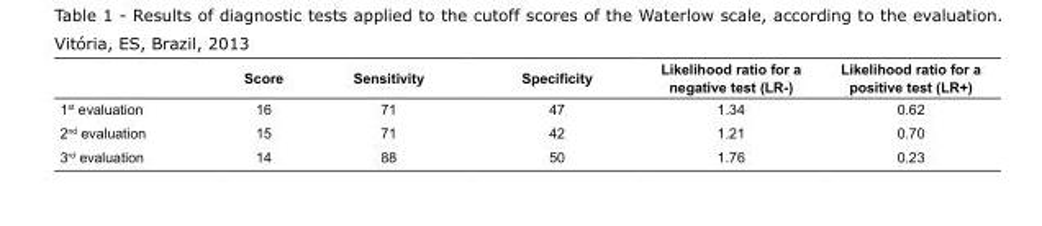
<table><thead><tr><td></td><td>Score</td><td>Sensitivity</td><td>Specificity</td><td>Likelihood ratio for a negative test (LR-)</td><td>Likelihood ratio for a positive test (LR+)</td></tr></thead><tbody><tr><td>1<sup>st</sup> evaluation</td><td>16</td><td>71</td><td>47</td><td>1.34</td><td>0.62</td></tr><tr><td>2<sup>nd</sup> evaluation</td><td>15</td><td>71</td><td>42</td><td>1.21</td><td>0.70</td></tr><tr><td>3<sup>rd</sup> evaluation</td><td>14</td><td>88</td><td>50</td><td>1.76</td><td>0.23</td></tr></tbody></table>